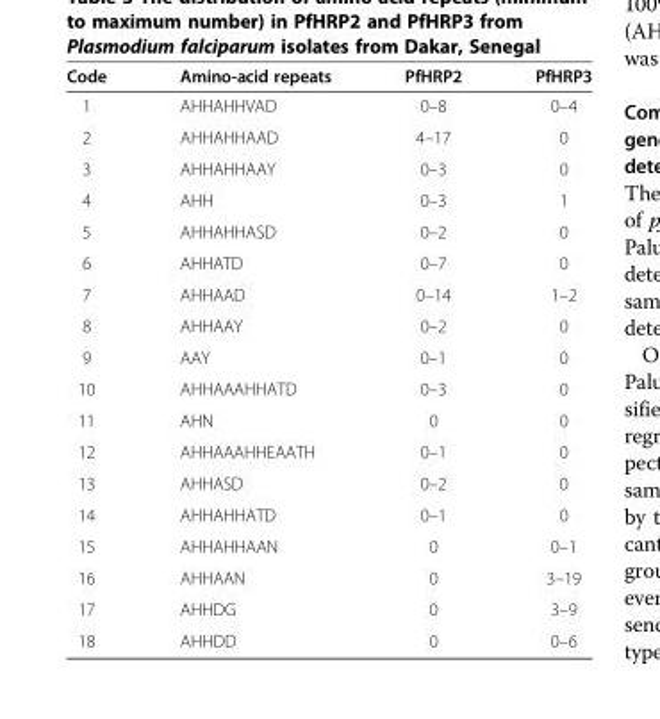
<table><thead><tr><td>Code</td><td>Amino-acid repeats</td><td>PfHRP2</td><td>PfHRP3</td></tr></thead><tbody><tr><td>1</td><td>AHHAHHVAD</td><td>0–8</td><td>0–4</td></tr><tr><td>2</td><td>AHHAHHAAD</td><td>4–17</td><td>0</td></tr><tr><td>3</td><td>AHHAHHAAY</td><td>0–3</td><td>0</td></tr><tr><td>4</td><td>AHH</td><td>0–3</td><td>1</td></tr><tr><td>5</td><td>AHHAHHASD</td><td>0–2</td><td>0</td></tr><tr><td>6</td><td>AHHATD</td><td>0–7</td><td>0</td></tr><tr><td>7</td><td>AHHAAD</td><td>0–14</td><td>1–2</td></tr><tr><td>8</td><td>AHHAAY</td><td>0–2</td><td>0</td></tr><tr><td>9</td><td>AAY</td><td>0–1</td><td>0</td></tr><tr><td>10</td><td>AHHAAAHHATD</td><td>0–3</td><td>0</td></tr><tr><td>11</td><td>AHN</td><td>0</td><td>0</td></tr><tr><td>12</td><td>AHHAAAHHEAATH</td><td>0–1</td><td>0</td></tr><tr><td>13</td><td>AHHASD</td><td>0–2</td><td>0</td></tr><tr><td>14</td><td>AHHAHHATD</td><td>0–1</td><td>0</td></tr><tr><td>15</td><td>AHHAHHAAN</td><td>0</td><td>0–1</td></tr><tr><td>16</td><td>AHHAAN</td><td>0</td><td>3–19</td></tr><tr><td>17</td><td>AHHDG</td><td>0</td><td>3–9</td></tr><tr><td>18</td><td>AHHDD</td><td>0</td><td>0–6</td></tr></tbody></table>